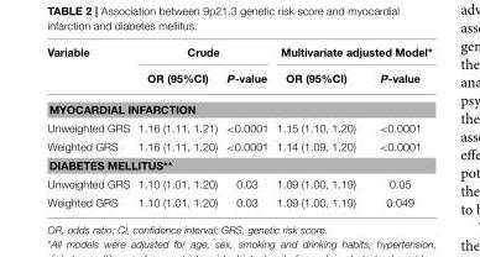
<table><thead><tr><td rowspan="2">Variable</td><td colspan="2">Crude</td><td colspan="2">Multivariate adjusted Model*</td></tr><tr><td>OR (95%CI)</td><td>P-value</td><td>OR (95%CI)</td><td>P-value</td></tr></thead><tbody><tr><td colspan="5">MYOCARDIAL INFARCTION</td></tr><tr><td>Unweighted GRS</td><td>1.16 (1.11, 1.21)</td><td>&lt;0.0001</td><td>1.15 (1.10, 1.20)</td><td>&lt;0.0001</td></tr><tr><td>Weighted GRS</td><td>1.16 (1.11, 1.20)</td><td>&lt;0.0001</td><td>1.14 (1.09, 1.20)</td><td>&lt;0.0001</td></tr><tr><td colspan="5">DIABETES MELLITUS**</td></tr><tr><td>Unweighted GRS</td><td>1.10 (1.01, 1.20)</td><td>0.03</td><td>1.09 (1.00, 1.19)</td><td>0.05</td></tr><tr><td>Weighted GRS</td><td>1.10 (1.01, 1.20)</td><td>0.03</td><td>1.09 (1.00, 1.19)</td><td>0.049</td></tr></tbody></table>